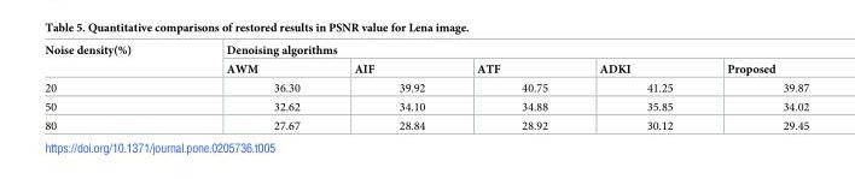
<table><thead><tr><td rowspan="2">Noise density(%)</td><td colspan="5">Denoising algorithms</td></tr><tr><td>AWM</td><td>AIF</td><td>ATF</td><td>ADKI</td><td>Proposed</td></tr></thead><tbody><tr><td>20</td><td>36.30</td><td>39.92</td><td>40.75</td><td>41.25</td><td>39.87</td></tr><tr><td>50</td><td>32.62</td><td>34.10</td><td>34.88</td><td>35.85</td><td>34.02</td></tr><tr><td>80</td><td>27.67</td><td>28.84</td><td>28.92</td><td>30.12</td><td>29.45</td></tr></tbody></table>